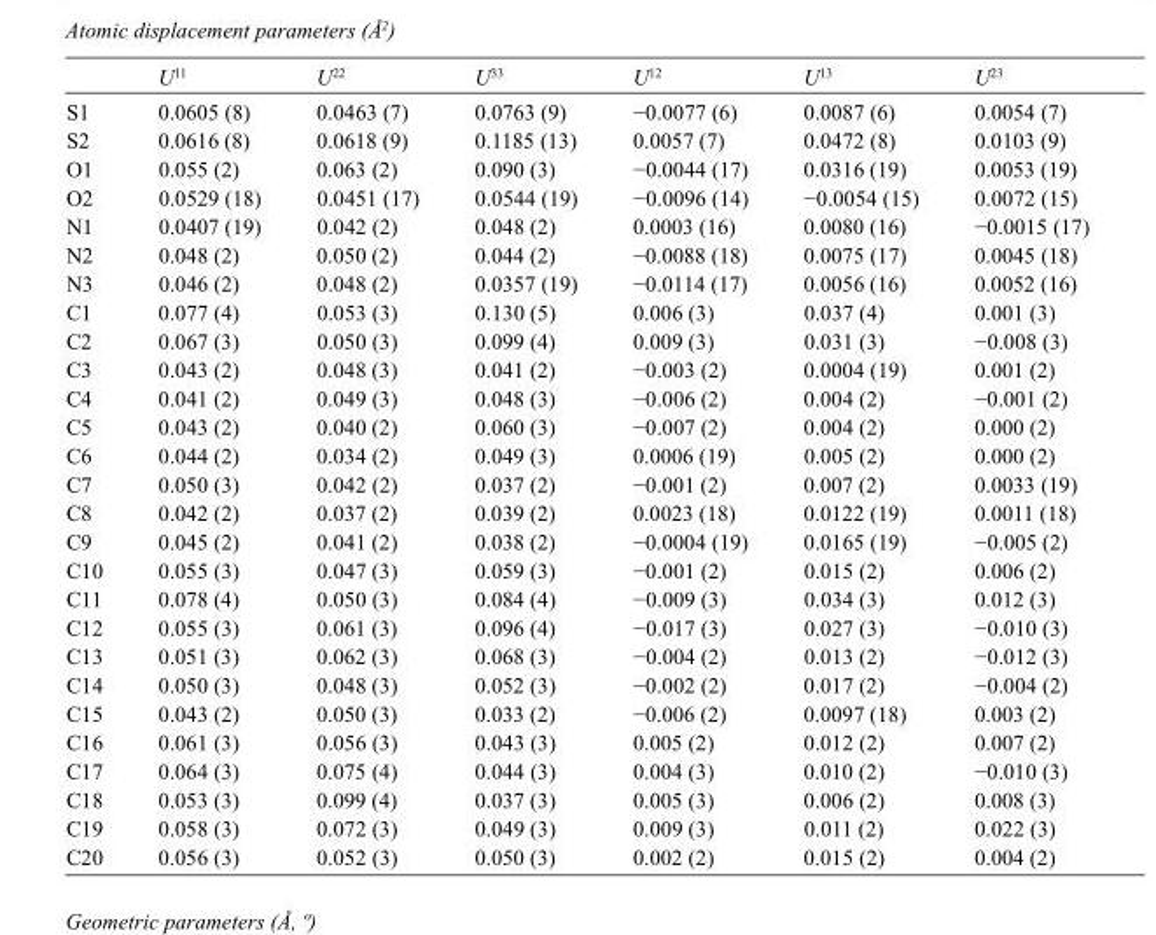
<table><thead><tr><td></td><td>U<sup>11</sup></td><td>U<sup>22</sup></td><td>U<sup>33</sup></td><td>U<sup>12</sup></td><td>U<sup>13</sup></td><td>U<sup>23</sup></td></tr></thead><tbody><tr><td>S1</td><td>0.0605 (8)</td><td>0.0463 (7)</td><td>0.0763 (9)</td><td>−0.0077 (6)</td><td>0.0087 (6)</td><td>0.0054 (7)</td></tr><tr><td>S2</td><td>0.0616 (8)</td><td>0.0618 (9)</td><td>0.1185 (13)</td><td>0.0057 (7)</td><td>0.0472 (8)</td><td>0.0103 (9)</td></tr><tr><td>O1</td><td>0.055 (2)</td><td>0.063 (2)</td><td>0.090 (3)</td><td>−0.0044 (17)</td><td>0.0316 (19)</td><td>0.0053 (19)</td></tr><tr><td>O2</td><td>0.0529 (18)</td><td>0.0451 (17)</td><td>0.0544 (19)</td><td>−0.0096 (14)</td><td>−0.0054 (15)</td><td>0.0072 (15)</td></tr><tr><td>N1</td><td>0.0407 (19)</td><td>0.042 (2)</td><td>0.048 (2)</td><td>0.0003 (16)</td><td>0.0080 (16)</td><td>−0.0015 (17)</td></tr><tr><td>N2</td><td>0.048 (2)</td><td>0.050 (2)</td><td>0.044 (2)</td><td>−0.0088 (18)</td><td>0.0075 (17)</td><td>0.0045 (18)</td></tr><tr><td>N3</td><td>0.046 (2)</td><td>0.048 (2)</td><td>0.0357 (19)</td><td>−0.0114 (17)</td><td>0.0056 (16)</td><td>0.0052 (16)</td></tr><tr><td>C1</td><td>0.077 (4)</td><td>0.053 (3)</td><td>0.130 (5)</td><td>0.006 (3)</td><td>0.037 (4)</td><td>0.001 (3)</td></tr><tr><td>C2</td><td>0.067 (3)</td><td>0.050 (3)</td><td>0.099 (4)</td><td>0.009 (3)</td><td>0.031 (3)</td><td>−0.008 (3)</td></tr><tr><td>C3</td><td>0.043 (2)</td><td>0.048 (3)</td><td>0.041 (2)</td><td>−0.003 (2)</td><td>0.0004 (19)</td><td>0.001 (2)</td></tr><tr><td>C4</td><td>0.041 (2)</td><td>0.049 (3)</td><td>0.048 (3)</td><td>−0.006 (2)</td><td>0.004 (2)</td><td>−0.001 (2)</td></tr><tr><td>C5</td><td>0.043 (2)</td><td>0.040 (2)</td><td>0.060 (3)</td><td>−0.007 (2)</td><td>0.004 (2)</td><td>0.000 (2)</td></tr><tr><td>C6</td><td>0.044 (2)</td><td>0.034 (2)</td><td>0.049 (3)</td><td>0.0006 (19)</td><td>0.005 (2)</td><td>0.000 (2)</td></tr><tr><td>C7</td><td>0.050 (3)</td><td>0.042 (2)</td><td>0.037 (2)</td><td>−0.001 (2)</td><td>0.007 (2)</td><td>0.0033 (19)</td></tr><tr><td>C8</td><td>0.042 (2)</td><td>0.037 (2)</td><td>0.039 (2)</td><td>0.0023 (18)</td><td>0.0122 (19)</td><td>0.0011 (18)</td></tr><tr><td>C9</td><td>0.045 (2)</td><td>0.041 (2)</td><td>0.038 (2)</td><td>−0.0004 (19)</td><td>0.0165 (19)</td><td>−0.005 (2)</td></tr><tr><td>C10</td><td>0.055 (3)</td><td>0.047 (3)</td><td>0.059 (3)</td><td>−0.001 (2)</td><td>0.015 (2)</td><td>0.006 (2)</td></tr><tr><td>C11</td><td>0.078 (4)</td><td>0.050 (3)</td><td>0.084 (4)</td><td>−0.009 (3)</td><td>0.034 (3)</td><td>0.012 (3)</td></tr><tr><td>C12</td><td>0.055 (3)</td><td>0.061 (3)</td><td>0.096 (4)</td><td>−0.017 (3)</td><td>0.027 (3)</td><td>−0.010 (3)</td></tr><tr><td>C13</td><td>0.051 (3)</td><td>0.062 (3)</td><td>0.068 (3)</td><td>−0.004 (2)</td><td>0.013 (2)</td><td>−0.012 (3)</td></tr><tr><td>C14</td><td>0.050 (3)</td><td>0.048 (3)</td><td>0.052 (3)</td><td>−0.002 (2)</td><td>0.017 (2)</td><td>−0.004 (2)</td></tr><tr><td>C15</td><td>0.043 (2)</td><td>0.050 (3)</td><td>0.033 (2)</td><td>−0.006 (2)</td><td>0.0097 (18)</td><td>0.003 (2)</td></tr><tr><td>C16</td><td>0.061 (3)</td><td>0.056 (3)</td><td>0.043 (3)</td><td>0.005 (2)</td><td>0.012 (2)</td><td>0.007 (2)</td></tr><tr><td>C17</td><td>0.064 (3)</td><td>0.075 (4)</td><td>0.044 (3)</td><td>0.004 (3)</td><td>0.010 (2)</td><td>−0.010 (3)</td></tr><tr><td>C18</td><td>0.053 (3)</td><td>0.099 (4)</td><td>0.037 (3)</td><td>0.005 (3)</td><td>0.006 (2)</td><td>0.008 (3)</td></tr><tr><td>C19</td><td>0.058 (3)</td><td>0.072 (3)</td><td>0.049 (3)</td><td>0.009 (3)</td><td>0.011 (2)</td><td>0.022 (3)</td></tr><tr><td>C20</td><td>0.056 (3)</td><td>0.052 (3)</td><td>0.050 (3)</td><td>0.002 (2)</td><td>0.015 (2)</td><td>0.004 (2)</td></tr></tbody></table>